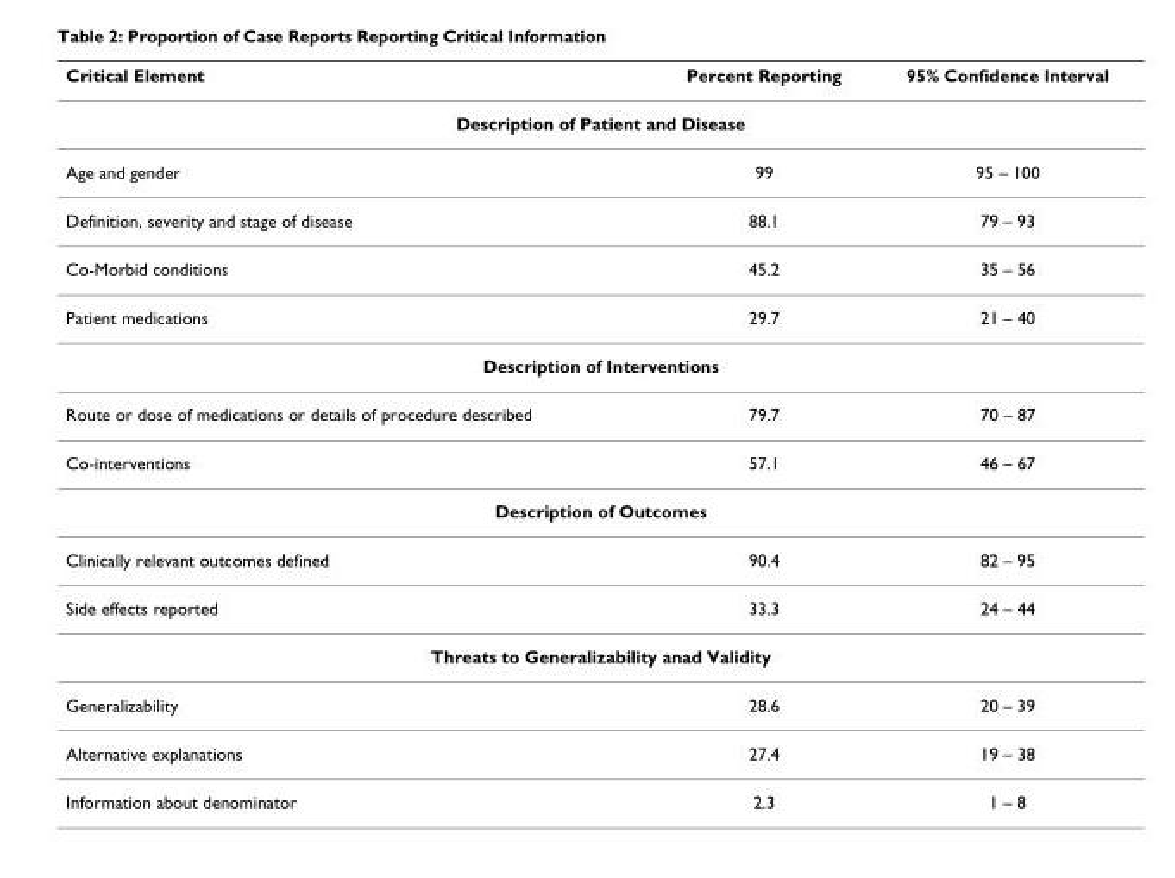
<table><thead><tr><td>Critical Element</td><td>Percent Reporting</td><td>95% Confidence Interval</td></tr></thead><tbody><tr><td colspan="3">Description of Patient and Disease</td></tr><tr><td>Age and gender</td><td>99</td><td>95 – 100</td></tr><tr><td>Definition, severity and stage of disease</td><td>88.1</td><td>79 – 93</td></tr><tr><td>Co-Morbid conditions</td><td>45.2</td><td>35 – 56</td></tr><tr><td>Patient medications</td><td>29.7</td><td>21 – 40</td></tr><tr><td colspan="3">Description of Interventions</td></tr><tr><td>Route or dose of medications or details of procedure described</td><td>79.7</td><td>70 – 87</td></tr><tr><td>Co-interventions</td><td>57.1</td><td>46 – 67</td></tr><tr><td colspan="3">Description of Outcomes</td></tr><tr><td>Clinically relevant outcomes defined</td><td>90.4</td><td>82 – 95</td></tr><tr><td>Side effects reported</td><td>33.3</td><td>24 – 44</td></tr><tr><td colspan="3">Threats to Generalizability anad Validity</td></tr><tr><td>Generalizability</td><td>28.6</td><td>20 – 39</td></tr><tr><td>Alternative explanations</td><td>27.4</td><td>19 – 38</td></tr><tr><td>Information about denominator</td><td>2.3</td><td>1 – 8</td></tr></tbody></table>